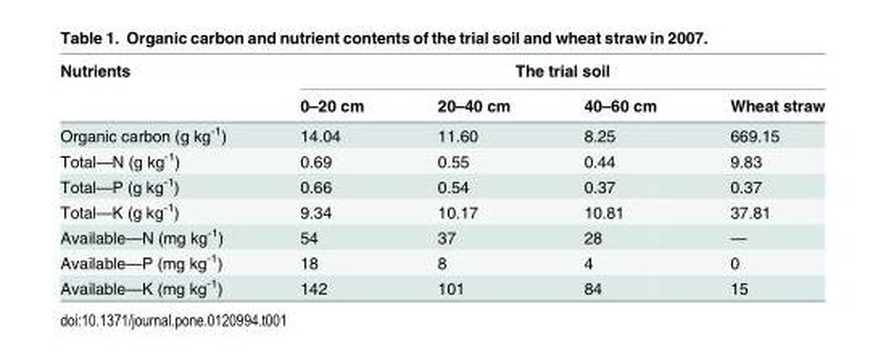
<table><thead><tr><td rowspan="2">Nutrients</td><td colspan="4">The trial soil</td></tr><tr><td>0–20 cm</td><td>20–40 cm</td><td>40–60 cm</td><td>Wheat straw</td></tr></thead><tbody><tr><td>Organic carbon (g kg<sup>-1</sup>)</td><td>14.04</td><td>11.60</td><td>8.25</td><td>669.15</td></tr><tr><td>Total—N (g kg<sup>-1</sup>)</td><td>0.69</td><td>0.55</td><td>0.44</td><td>9.83</td></tr><tr><td>Total—P (g kg<sup>-1</sup>)</td><td>0.66</td><td>0.54</td><td>0.37</td><td>0.37</td></tr><tr><td>Total—K (g kg<sup>-1</sup>)</td><td>9.34</td><td>10.17</td><td>10.81</td><td>37.81</td></tr><tr><td>Available—N (mg kg<sup>-1</sup>)</td><td>54</td><td>37</td><td>28</td><td>—</td></tr><tr><td>Available—P (mg kg<sup>-1</sup>)</td><td>18</td><td>8</td><td>4</td><td>0</td></tr><tr><td>Available—K (mg kg<sup>-1</sup>)</td><td>142</td><td>101</td><td>84</td><td>15</td></tr></tbody></table>